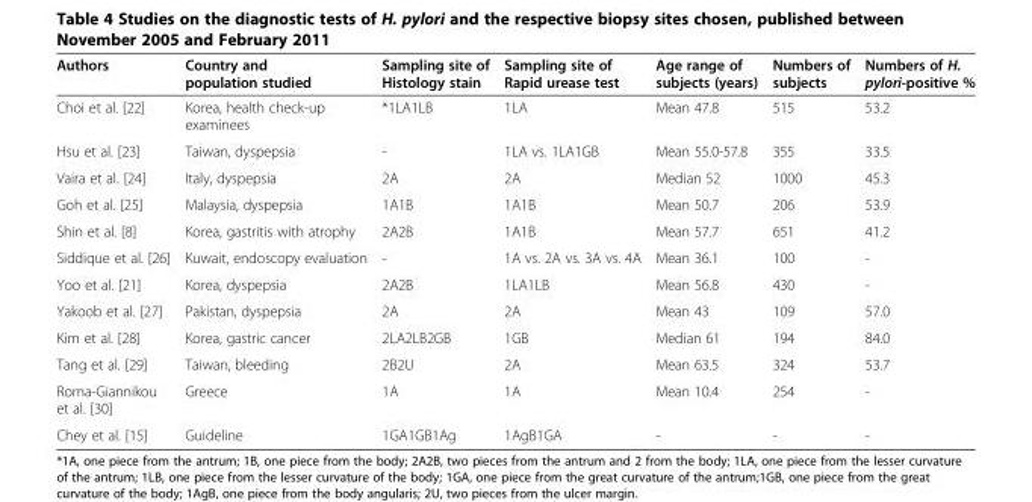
<table><thead><tr><td>Authors</td><td>Country and population studied</td><td>Sampling site of Histology stain</td><td>Sampling site of Rapid urease test</td><td>Age range of subjects (years)</td><td>Numbers of subjects</td><td>Numbers of H. pylori-positive %</td></tr></thead><tbody><tr><td>Choi et al. [22]</td><td>Korea, health check-up examinees</td><td>*1LA1LB</td><td>1LA</td><td>Mean 47.8</td><td>515</td><td>53.2</td></tr><tr><td>Hsu et al. [23]</td><td>Taiwan, dyspepsia</td><td>-</td><td>1LA vs. 1LA1GB</td><td>Mean 55.0-57.8</td><td>355</td><td>33.5</td></tr><tr><td>Vaira et al. [24]</td><td>Italy, dyspepsia</td><td>2A</td><td>2A</td><td>Median 52</td><td>1000</td><td>45.3</td></tr><tr><td>Goh et al. [25]</td><td>Malaysia, dyspepsia</td><td>1A1B</td><td>1A1B</td><td>Mean 50.7</td><td>206</td><td>53.9</td></tr><tr><td>Shin et al. [8]</td><td>Korea, gastritis with atrophy</td><td>2A2B</td><td>1A1B</td><td>Mean 57.7</td><td>651</td><td>41.2</td></tr><tr><td>Siddique et al. [26]</td><td>Kuwait, endoscopy evaluation</td><td>-</td><td>1A vs. 2A vs. 3A vs. 4A</td><td>Mean 36.1</td><td>100</td><td>-</td></tr><tr><td>Yoo et al. [21]</td><td>Korea, dyspepsia</td><td>2A2B</td><td>1LA1LB</td><td>Mean 56.8</td><td>430</td><td>-</td></tr><tr><td>Yakoob et al. [27]</td><td>Pakistan, dyspepsia</td><td>2A</td><td>2A</td><td>Mean 43</td><td>109</td><td>57.0</td></tr><tr><td>Kim et al. [28]</td><td>Korea, gastric cancer</td><td>2LA2LB2GB</td><td>1GB</td><td>Median 61</td><td>194</td><td>84.0</td></tr><tr><td>Tang et al. [29]</td><td>Taiwan, bleeding</td><td>2B2U</td><td>2A</td><td>Mean 63.5</td><td>324</td><td>53.7</td></tr><tr><td>Roma-Giannikou et al. [30]</td><td>Greece</td><td>1A</td><td>1A</td><td>Mean 10.4</td><td>254</td><td>-</td></tr><tr><td>Chey et al. [15]</td><td>Guideline</td><td>1GA1GB1Ag</td><td>1AgB1GA</td><td>-</td><td>-</td><td>-</td></tr></tbody></table>